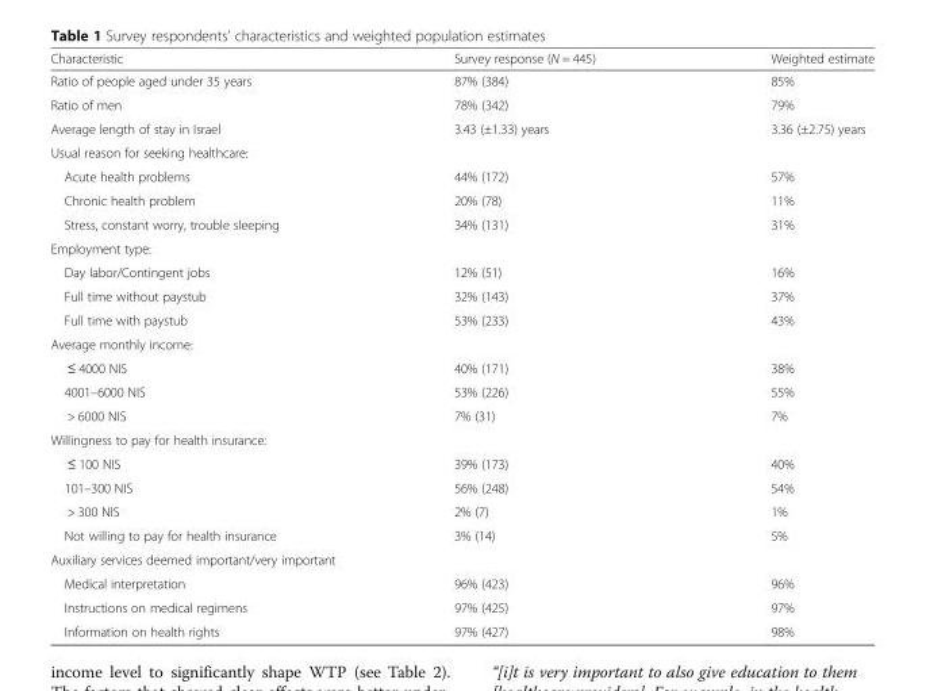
<table><thead><tr><td>Characteristic</td><td>Survey response (N = 445)</td><td>Weighted estimate</td></tr></thead><tbody><tr><td>Ratio of people aged under 35 years</td><td>87% (384)</td><td>85%</td></tr><tr><td>Ratio of men</td><td>78% (342)</td><td>79%</td></tr><tr><td>Average length of stay in Israel</td><td>3.43 (±1.33) years</td><td>3.36 (±2.75) years</td></tr><tr><td colspan="3">Usual reason for seeking healthcare:</td></tr><tr><td>Acute health problems</td><td>44% (172)</td><td>57%</td></tr><tr><td>Chronic health problem</td><td>20% (78)</td><td>11%</td></tr><tr><td>Stress, constant worry, trouble sleeping</td><td>34% (131)</td><td>31%</td></tr><tr><td colspan="3">Employment type:</td></tr><tr><td>Day labor/Contingent jobs</td><td>12% (51)</td><td>16%</td></tr><tr><td>Full time without paystub</td><td>32% (143)</td><td>37%</td></tr><tr><td>Full time with paystub</td><td>53% (233)</td><td>43%</td></tr><tr><td colspan="3">Average monthly income:</td></tr><tr><td>≤ 4000 NIS</td><td>40% (171)</td><td>38%</td></tr><tr><td>4001–6000 NIS</td><td>53% (226)</td><td>55%</td></tr><tr><td>&gt; 6000 NIS</td><td>7% (31)</td><td>7%</td></tr><tr><td colspan="3">Willingness to pay for health insurance:</td></tr><tr><td>≤ 100 NIS</td><td>39% (173)</td><td>40%</td></tr><tr><td>101–300 NIS</td><td>56% (248)</td><td>54%</td></tr><tr><td>&gt; 300 NIS</td><td>2% (7)</td><td>1%</td></tr><tr><td>Not willing to pay for health insurance</td><td>3% (14)</td><td>5%</td></tr><tr><td colspan="3">Auxiliary services deemed important/very important</td></tr><tr><td>Medical interpretation</td><td>96% (423)</td><td>96%</td></tr><tr><td>Instructions on medical regimens</td><td>97% (425)</td><td>97%</td></tr><tr><td>Information on health rights</td><td>97% (427)</td><td>98%</td></tr></tbody></table>